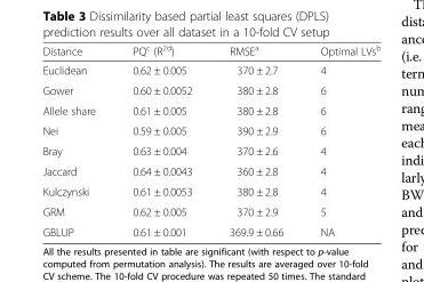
<table><thead><tr><td>Distance</td><td>PQ<sup>c</sup> (R<sup>2d</sup>)</td><td>RMSE<sup>a</sup></td><td>Optimal LVs<sup>b</sup></td></tr></thead><tbody><tr><td>Euclidean</td><td>0.62 ± 0.005</td><td>370 ± 2.7</td><td>4</td></tr><tr><td>Gower</td><td>0.60 ± 0.0052</td><td>380 ± 2.8</td><td>6</td></tr><tr><td>Allele share</td><td>0.61 ± 0.005</td><td>380 ± 2.8</td><td>6</td></tr><tr><td>Nei</td><td>0.59 ± 0.005</td><td>390 ± 2.9</td><td>6</td></tr><tr><td>Bray</td><td>0.63 ± 0.004</td><td>370 ± 2.6</td><td>4</td></tr><tr><td>Jaccard</td><td>0.64 ± 0.0043</td><td>360 ± 2.8</td><td>4</td></tr><tr><td>Kulczynski</td><td>0.61 ± 0.0053</td><td>380 ± 2.8</td><td>4</td></tr><tr><td>GRM</td><td>0.62 ± 0.005</td><td>370 ± 2.9</td><td>5</td></tr><tr><td>GBLUP</td><td>0.61 ± 0.001</td><td>369.9 ± 0.66</td><td>NA</td></tr></tbody></table>